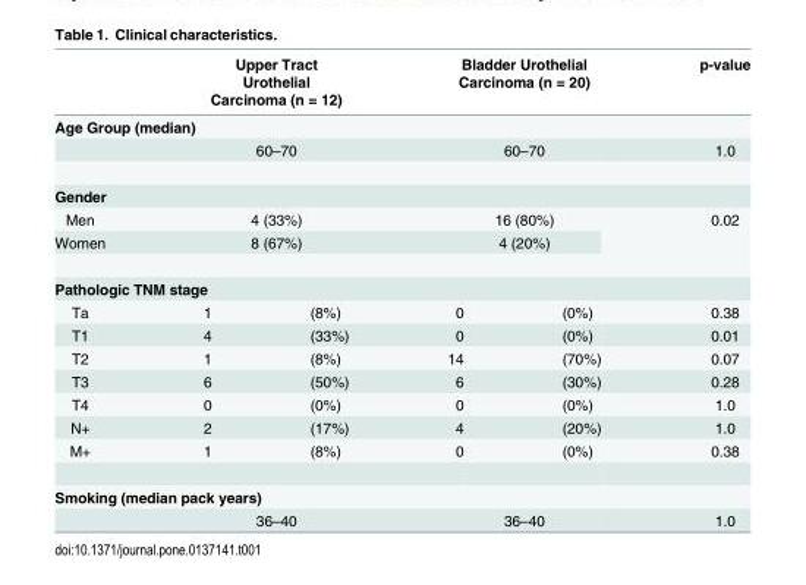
<table><thead><tr><td></td><td colspan="2">Upper Tract Urothelial Carcinoma (n = 12)</td><td colspan="2">Bladder Urothelial Carcinoma (n = 20)</td><td>p-value</td></tr></thead><tbody><tr><td colspan="6">Age Group (median)</td></tr><tr><td></td><td colspan="2">60–70</td><td colspan="2">60–70</td><td>1.0</td></tr><tr><td colspan="6">Gender</td></tr><tr><td>Men</td><td colspan="2">4 (33%)</td><td colspan="2">16 (80%)</td><td rowspan="2">0.02</td></tr><tr><td>Women</td><td colspan="2">8 (67%)</td><td colspan="2">4 (20%)</td></tr><tr><td colspan="6">Pathologic TNM stage</td></tr><tr><td>Ta</td><td>1</td><td>(8%)</td><td>0</td><td>(0%)</td><td>0.38</td></tr><tr><td>T1</td><td>4</td><td>(33%)</td><td>0</td><td>(0%)</td><td>0.01</td></tr><tr><td>T2</td><td>1</td><td>(8%)</td><td>14</td><td>(70%)</td><td>0.07</td></tr><tr><td>T3</td><td>6</td><td>(50%)</td><td>6</td><td>(30%)</td><td>0.28</td></tr><tr><td>T4</td><td>0</td><td>(0%)</td><td>0</td><td>(0%)</td><td>1.0</td></tr><tr><td>N+</td><td>2</td><td>(17%)</td><td>4</td><td>(20%)</td><td>1.0</td></tr><tr><td>M+</td><td>1</td><td>(8%)</td><td>0</td><td>(0%)</td><td>0.38</td></tr><tr><td colspan="6">Smoking (median pack years)</td></tr><tr><td></td><td colspan="2">36–40</td><td colspan="2">36–40</td><td>1.0</td></tr></tbody></table>